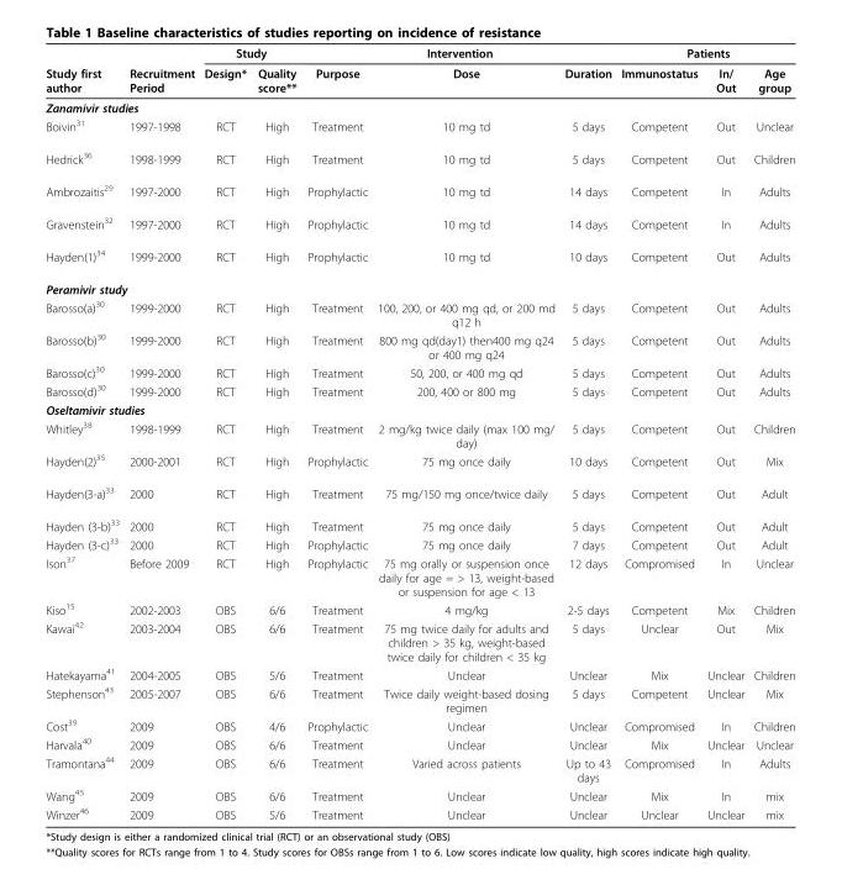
<table><thead><tr><td rowspan="2">Study first author</td><td rowspan="2">Recruitment Period</td><td colspan="2">Study</td><td colspan="3">Intervention</td><td colspan="3">Patients</td></tr><tr><td>Design*</td><td>Quality score**</td><td>Purpose</td><td>Dose</td><td>Duration</td><td>Immunostatus</td><td>In/ Out</td><td>Age group</td></tr></thead><tbody><tr><td colspan="10">Zanamivir studies</td></tr><tr><td>Boivin<sup>31</sup></td><td>1997-1998</td><td>RCT</td><td>High</td><td>Treatment</td><td>10 mg td</td><td>5 days</td><td>Competent</td><td>Out</td><td>Unclear</td></tr><tr><td>Hedrick<sup>36</sup></td><td>1998-1999</td><td>RCT</td><td>High</td><td>Treatment</td><td>10 mg td</td><td>5 days</td><td>Competent</td><td>Out</td><td>Children</td></tr><tr><td>Ambrozaitis<sup>29</sup></td><td>1997-2000</td><td>RCT</td><td>High</td><td>Prophylactic</td><td>10 mg td</td><td>14 days</td><td>Competent</td><td>In</td><td>Adults</td></tr><tr><td>Gravenstein<sup>32</sup></td><td>1997-2000</td><td>RCT</td><td>High</td><td>Prophylactic</td><td>10 mg td</td><td>14 days</td><td>Competent</td><td>In</td><td>Adults</td></tr><tr><td>Hayden(1)<sup>34</sup></td><td>1999-2000</td><td>RCT</td><td>High</td><td>Prophylactic</td><td>10 mg td</td><td>10 days</td><td>Competent</td><td>Out</td><td>Adults</td></tr><tr><td colspan="10">Peramivir study</td></tr><tr><td>Barosso(a)<sup>30</sup></td><td>1999-2000</td><td>RCT</td><td>High</td><td>Treatment</td><td>100, 200, or 400 mg qd, or 200 md q12 h</td><td>5 days</td><td>Competent</td><td>Out</td><td>Adults</td></tr><tr><td>Barosso(b)<sup>30</sup></td><td>1999-2000</td><td>RCT</td><td>High</td><td>Treatment</td><td>800 mg qd(day1) then400 mg q24 or 400 mg q24</td><td>5 days</td><td>Competent</td><td>Out</td><td>Adults</td></tr><tr><td>Barosso(c)<sup>30</sup></td><td>1999-2000</td><td>RCT</td><td>High</td><td>Treatment</td><td>50, 200, or 400 mg qd</td><td>5 days</td><td>Competent</td><td>Out</td><td>Adults</td></tr><tr><td>Barosso(d)<sup>30</sup></td><td>1999-2000</td><td>RCT</td><td>High</td><td>Treatment</td><td>200, 400 or 800 mg</td><td>5 days</td><td>Competent</td><td>Out</td><td>Adults</td></tr><tr><td colspan="10">Oseltamivir studies</td></tr><tr><td>Whitley<sup>38</sup></td><td>1998-1999</td><td>RCT</td><td>High</td><td>Treatment</td><td>2 mg/kg twice daily (max 100 mg/ day)</td><td>5 days</td><td>Competent</td><td>Out</td><td>Children</td></tr><tr><td>Hayden(2)<sup>35</sup></td><td>2000-2001</td><td>RCT</td><td>High</td><td>Prophylactic</td><td>75 mg once daily</td><td>10 days</td><td>Competent</td><td>Out</td><td>Mix</td></tr><tr><td>Hayden(3-a)<sup>33</sup></td><td>2000</td><td>RCT</td><td>High</td><td>Treatment</td><td>75 mg/150 mg once/twice daily</td><td>5 days</td><td>Competent</td><td>Out</td><td>Adult</td></tr><tr><td>Hayden (3-b)<sup>33</sup></td><td>2000</td><td>RCT</td><td>High</td><td>Treatment</td><td>75 mg once daily</td><td>5 days</td><td>Competent</td><td>Out</td><td>Adult</td></tr><tr><td>Hayden (3-c)<sup>33</sup></td><td>2000</td><td>RCT</td><td>High</td><td>Prophylactic</td><td>75 mg once daily</td><td>7 days</td><td>Competent</td><td>Out</td><td>Adult</td></tr><tr><td>Ison<sup>37</sup></td><td>Before 2009</td><td>RCT</td><td>High</td><td>Prophylactic</td><td>75 mg orally or suspension once daily for age = &gt; 13, weight-based or suspension for age &lt; 13</td><td>12 days</td><td>Compromised</td><td>In</td><td>Unclear</td></tr><tr><td>Kiso<sup>15</sup></td><td>2002-2003</td><td>OBS</td><td>6/6</td><td>Treatment</td><td>4 mg/kg</td><td>2-5 days</td><td>Competent</td><td>Mix</td><td>Children</td></tr><tr><td>Kawai<sup>42</sup></td><td>2003-2004</td><td>OBS</td><td>6/6</td><td>Treatment</td><td>75 mg twice daily for adults and children &gt; 35 kg, weight-based twice daily for children &lt; 35 kg</td><td>5 days</td><td>Unclear</td><td>Out</td><td>Mix</td></tr><tr><td>Hatekayama<sup>41</sup></td><td>2004-2005</td><td>OBS</td><td>5/6</td><td>Treatment</td><td>Unclear</td><td>Unclear</td><td>Mix</td><td>Unclear</td><td>Children</td></tr><tr><td>Stephenson<sup>43</sup></td><td>2005-2007</td><td>OBS</td><td>6/6</td><td>Treatment</td><td>Twice daily weight-based dosing regimen</td><td>5 days</td><td>Competent</td><td>Unclear</td><td>Mix</td></tr><tr><td>Cost<sup>39</sup></td><td>2009</td><td>OBS</td><td>4/6</td><td>Prophylactic</td><td>Unclear</td><td>Unclear</td><td>Compromised</td><td>In</td><td>Children</td></tr><tr><td>Harvala<sup>40</sup></td><td>2009</td><td>OBS</td><td>6/6</td><td>Treatment</td><td>Unclear</td><td>Unclear</td><td>Mix</td><td>Unclear</td><td>Unclear</td></tr><tr><td>Tramontana<sup>44</sup></td><td>2009</td><td>OBS</td><td>6/6</td><td>Treatment</td><td>Varied across patients</td><td>Up to 43 days</td><td>Compromised</td><td>In</td><td>Adults</td></tr><tr><td>Wang<sup>45</sup></td><td>2009</td><td>OBS</td><td>6/6</td><td>Treatment</td><td>Unclear</td><td>Unclear</td><td>Mix</td><td>In</td><td>mix</td></tr><tr><td>Winzer<sup>46</sup></td><td>2009</td><td>OBS</td><td>5/6</td><td>Treatment</td><td>Unclear</td><td>Unclear</td><td>Unclear</td><td>Unclear</td><td>mix</td></tr></tbody></table>